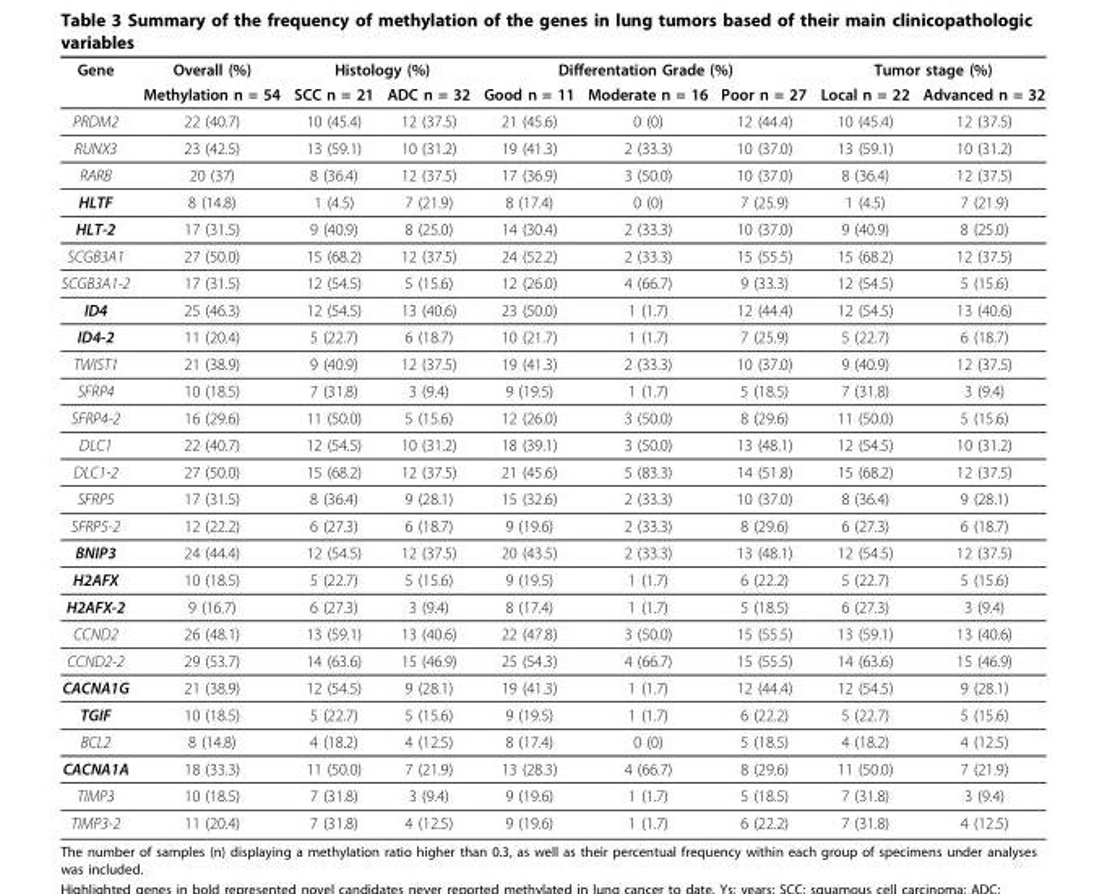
<table><thead><tr><td rowspan="2">Gene</td><td rowspan="2">Overall (%) Methylation n = 54</td><td colspan="2">Histology (%)</td><td colspan="3">Differentation Grade (%)</td><td colspan="2">Tumor stage (%)</td></tr><tr><td>SCC n = 21</td><td>ADC n = 32</td><td>Good n = 11</td><td>Moderate n = 16</td><td>Poor n = 27</td><td>Local n = 22</td><td>Advanced n = 32</td></tr></thead><tbody><tr><td>PRDM2</td><td>22 (40.7)</td><td>10 (45.4)</td><td>12 (37.5)</td><td>21 (45.6)</td><td>0 (0)</td><td>12 (44.4)</td><td>10 (45.4)</td><td>12 (37.5)</td></tr><tr><td>RUNX3</td><td>23 (42.5)</td><td>13 (59.1)</td><td>10 (31.2)</td><td>19 (41.3)</td><td>2 (33.3)</td><td>10 (37.0)</td><td>13 (59.1)</td><td>10 (31.2)</td></tr><tr><td>RARB</td><td>20 (37)</td><td>8 (36.4)</td><td>12 (37.5)</td><td>17 (36.9)</td><td>3 (50.0)</td><td>10 (37.0)</td><td>8 (36.4)</td><td>12 (37.5)</td></tr><tr><td>HLTF</td><td>8 (14.8)</td><td>1 (4.5)</td><td>7 (21.9)</td><td>8 (17.4)</td><td>0 (0)</td><td>7 (25.9)</td><td>1 (4.5)</td><td>7 (21.9)</td></tr><tr><td>HLT-2</td><td>17 (31.5)</td><td>9 (40.9)</td><td>8 (25.0)</td><td>14 (30.4)</td><td>2 (33.3)</td><td>10 (37.0)</td><td>9 (40.9)</td><td>8 (25.0)</td></tr><tr><td>SCGB3A1</td><td>27 (50.0)</td><td>15 (68.2)</td><td>12 (37.5)</td><td>24 (52.2)</td><td>2 (33.3)</td><td>15 (55.5)</td><td>15 (68.2)</td><td>12 (37.5)</td></tr><tr><td>SCGB3A1-2</td><td>17 (31.5)</td><td>12 (54.5)</td><td>5 (15.6)</td><td>12 (26.0)</td><td>4 (66.7)</td><td>9 (33.3)</td><td>12 (54.5)</td><td>5 (15.6)</td></tr><tr><td>ID4</td><td>25 (46.3)</td><td>12 (54.5)</td><td>13 (40.6)</td><td>23 (50.0)</td><td>1 (1.7)</td><td>12 (44.4)</td><td>12 (54.5)</td><td>13 (40.6)</td></tr><tr><td>ID4-2</td><td>11 (20.4)</td><td>5 (22.7)</td><td>6 (18.7)</td><td>10 (21.7)</td><td>1 (1.7)</td><td>7 (25.9)</td><td>5 (22.7)</td><td>6 (18.7)</td></tr><tr><td>TWIST1</td><td>21 (38.9)</td><td>9 (40.9)</td><td>12 (37.5)</td><td>19 (41.3)</td><td>2 (33.3)</td><td>10 (37.0)</td><td>9 (40.9)</td><td>12 (37.5)</td></tr><tr><td>SFRP4</td><td>10 (18.5)</td><td>7 (31.8)</td><td>3 (9.4)</td><td>9 (19.5)</td><td>1 (1.7)</td><td>5 (18.5)</td><td>7 (31.8)</td><td>3 (9.4)</td></tr><tr><td>SFRP4-2</td><td>16 (29.6)</td><td>11 (50.0)</td><td>5 (15.6)</td><td>12 (26.0)</td><td>3 (50.0)</td><td>8 (29.6)</td><td>11 (50.0)</td><td>5 (15.6)</td></tr><tr><td>DLC1</td><td>22 (40.7)</td><td>12 (54.5)</td><td>10 (31.2)</td><td>18 (39.1)</td><td>3 (50.0)</td><td>13 (48.1)</td><td>12 (54.5)</td><td>10 (31.2)</td></tr><tr><td>DLC1-2</td><td>27 (50.0)</td><td>15 (68.2)</td><td>12 (37.5)</td><td>21 (45.6)</td><td>5 (83.3)</td><td>14 (51.8)</td><td>15 (68.2)</td><td>12 (37.5)</td></tr><tr><td>SFRP5</td><td>17 (31.5)</td><td>8 (36.4)</td><td>9 (28.1)</td><td>15 (32.6)</td><td>2 (33.3)</td><td>10 (37.0)</td><td>8 (36.4)</td><td>9 (28.1)</td></tr><tr><td>SFRP5-2</td><td>12 (22.2)</td><td>6 (27.3)</td><td>6 (18.7)</td><td>9 (19.6)</td><td>2 (33.3)</td><td>8 (29.6)</td><td>6 (27.3)</td><td>6 (18.7)</td></tr><tr><td>BNIP3</td><td>24 (44.4)</td><td>12 (54.5)</td><td>12 (37.5)</td><td>20 (43.5)</td><td>2 (33.3)</td><td>13 (48.1)</td><td>12 (54.5)</td><td>12 (37.5)</td></tr><tr><td>H2AFX</td><td>10 (18.5)</td><td>5 (22.7)</td><td>5 (15.6)</td><td>9 (19.5)</td><td>1 (1.7)</td><td>6 (22.2)</td><td>5 (22.7)</td><td>5 (15.6)</td></tr><tr><td>H2AFX-2</td><td>9 (16.7)</td><td>6 (27.3)</td><td>3 (9.4)</td><td>8 (17.4)</td><td>1 (1.7)</td><td>5 (18.5)</td><td>6 (27.3)</td><td>3 (9.4)</td></tr><tr><td>CCND2</td><td>26 (48.1)</td><td>13 (59.1)</td><td>13 (40.6)</td><td>22 (47.8)</td><td>3 (50.0)</td><td>15 (55.5)</td><td>13 (59.1)</td><td>13 (40.6)</td></tr><tr><td>CCND2-2</td><td>29 (53.7)</td><td>14 (63.6)</td><td>15 (46.9)</td><td>25 (54.3)</td><td>4 (66.7)</td><td>15 (55.5)</td><td>14 (63.6)</td><td>15 (46.9)</td></tr><tr><td>CACNA1G</td><td>21 (38.9)</td><td>12 (54.5)</td><td>9 (28.1)</td><td>19 (41.3)</td><td>1 (1.7)</td><td>12 (44.4)</td><td>12 (54.5)</td><td>9 (28.1)</td></tr><tr><td>TGIF</td><td>10 (18.5)</td><td>5 (22.7)</td><td>5 (15.6)</td><td>9 (19.5)</td><td>1 (1.7)</td><td>6 (22.2)</td><td>5 (22.7)</td><td>5 (15.6)</td></tr><tr><td>BCL2</td><td>8 (14.8)</td><td>4 (18.2)</td><td>4 (12.5)</td><td>8 (17.4)</td><td>0 (0)</td><td>5 (18.5)</td><td>4 (18.2)</td><td>4 (12.5)</td></tr><tr><td>CACNA1A</td><td>18 (33.3)</td><td>11 (50.0)</td><td>7 (21.9)</td><td>13 (28.3)</td><td>4 (66.7)</td><td>8 (29.6)</td><td>11 (50.0)</td><td>7 (21.9)</td></tr><tr><td>TIMP3</td><td>10 (18.5)</td><td>7 (31.8)</td><td>3 (9.4)</td><td>9 (19.6)</td><td>1 (1.7)</td><td>5 (18.5)</td><td>7 (31.8)</td><td>3 (9.4)</td></tr><tr><td>TIMP3-2</td><td>11 (20.4)</td><td>7 (31.8)</td><td>4 (12.5)</td><td>9 (19.6)</td><td>1 (1.7)</td><td>6 (22.2)</td><td>7 (31.8)</td><td>4 (12.5)</td></tr></tbody></table>